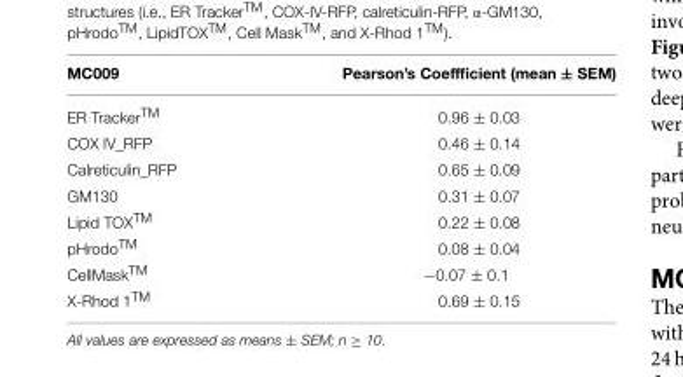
<table><thead><tr><td>MC009</td><td>Pearson’s Coeffficient (mean ± SEM)</td></tr></thead><tbody><tr><td>ER Tracker<sup>TM</sup></td><td>0.96 ± 0.03</td></tr><tr><td>COX IV_RFP</td><td>0.46 ± 0.14</td></tr><tr><td>Calreticulin_RFP</td><td>0.65 ± 0.09</td></tr><tr><td>GM130</td><td>0.31 ± 0.07</td></tr><tr><td>Lipid TOX<sup>TM</sup></td><td>0.22 ± 0.08</td></tr><tr><td>pHrodo<sup>TM</sup></td><td>0.08 ± 0.04</td></tr><tr><td>CellMask<sup>TM</sup></td><td>−0.07 ± 0.1</td></tr><tr><td>X-Rhod 1<sup>TM</sup></td><td>0.69 ± 0.15</td></tr></tbody></table>